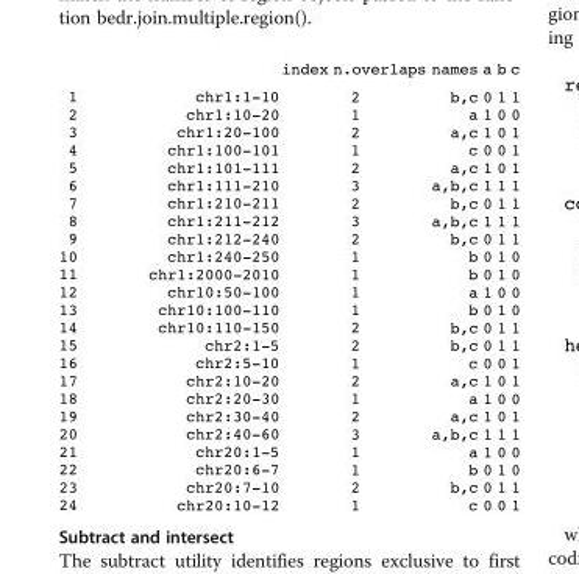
<table><tbody><tr><td colspan="4">index n.overlaps names a b c</td></tr><tr><td>1 2 3 4 5 6 7 8 9 10 11 12 13 14 15 16 17 18 19 20 21 22 23 24</td><td>chr1:1-10 chr1:10-20 chr1:20-100 chr1:100-101 chr1:101-111 chr1:111-210 chr1:210-211 chr1:211-212 chr1:212-240 chr1:240-250 chr1:2000-2010 chr10:50-100 chr10:100-110 chr10:110-150 chr2:1-5 chr2:5-10 chr2:10-20 chr2:20-30 chr2:30-40 chr2:40-60 chr20:1-5 chr20:6-7 chr20:7-10 chr20:10-12</td><td>2 1 2 1 2 3 2 3 2 1 1 1 1 2 2 1 2 1 2 3 1 1 2 1</td><td>b,c 0 1 1 a 1 0 0 a,c 1 0 1 c 0 0 1 a,c 1 0 1 a,b,c 1 1 1 b,c 0 1 1 a,b,c 1 1 1 b,c 0 1 1 b 0 1 0 b 0 1 0 a 1 0 0 b 0 1 0 b,c 0 1 1 b,c 0 1 1 c 0 0 1 a,c 1 0 1 a 1 0 0 a,c 1 0 1 a,b,c 1 1 1 a 1 0 0 b 0 1 0 b,c 0 1 1 c 0 0 1</td></tr></tbody></table>